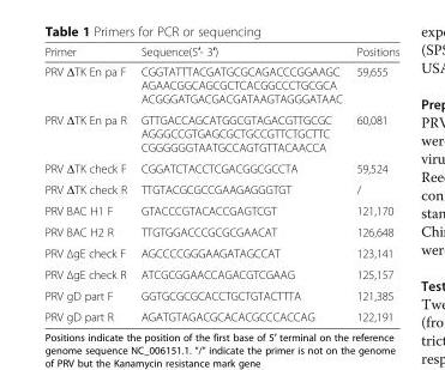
<table><thead><tr><td>Primer</td><td>Sequence(5′- 3′)</td><td>Positions</td></tr></thead><tbody><tr><td>PRV ΔTK En pa F</td><td>CGGTATTTACGATGCGCAGACCCGGAAGC AGAACGGCAGCGCTCACGGCCCTGCGCA ACGGGATGACGACGATAAGTAGGGATAAC</td><td>59,655</td></tr><tr><td>PRV ΔTK En pa R</td><td>GTTGACCAGCATGGCGTAGACGTTGCGC AGGGCCGTGAGCGCTGCCGTTCTGCTTC CGGGGGGTAATGCCAGTGTTACAACCA</td><td>60,081</td></tr><tr><td>PRV ΔTK check F</td><td>CGGATCTACCTCGACGGCGCCTA</td><td>59,524</td></tr><tr><td>PRV ΔTK check R</td><td>TTGTACGCGCCGAAGAGGGTGT</td><td>/</td></tr><tr><td>PRV BAC H1 F</td><td>GTACCCGTACACCGAGTCGT</td><td>121,170</td></tr><tr><td>PRV BAC H2 R</td><td>TTGTGGACCCGCGCGAACAT</td><td>126,648</td></tr><tr><td>PRV ΔgE check F</td><td>AGCCCCGGGAAGATAGCCAT</td><td>123,141</td></tr><tr><td>PRV ΔgE check R</td><td>ATCGCGGAACCAGACGTCGAAG</td><td>125,157</td></tr><tr><td>PRV gD part F</td><td>GGTGCGCGCACCTGCTGTACTTTA</td><td>121,385</td></tr><tr><td>PRV gD part R</td><td>AGATGTAGACGCACACGCCCACCAG</td><td>122,191</td></tr></tbody></table>